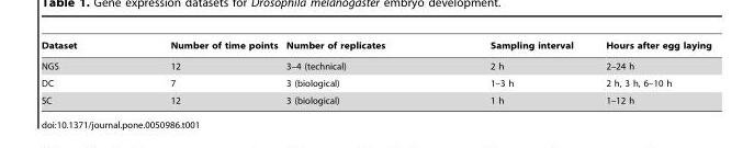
<table><thead><tr><td>Dataset</td><td>Number of time points</td><td>Number of replicates</td><td>Sampling interval</td><td>Hours after egg laying</td></tr></thead><tbody><tr><td>NGS</td><td>12</td><td>3–4 (technical)</td><td>2 h</td><td>2–24 h</td></tr><tr><td>DC</td><td>7</td><td>3 (biological)</td><td>1–3 h</td><td>2 h, 3 h, 6–10 h</td></tr><tr><td>SC</td><td>12</td><td>3 (biological)</td><td>1 h</td><td>1–12 h</td></tr></tbody></table>